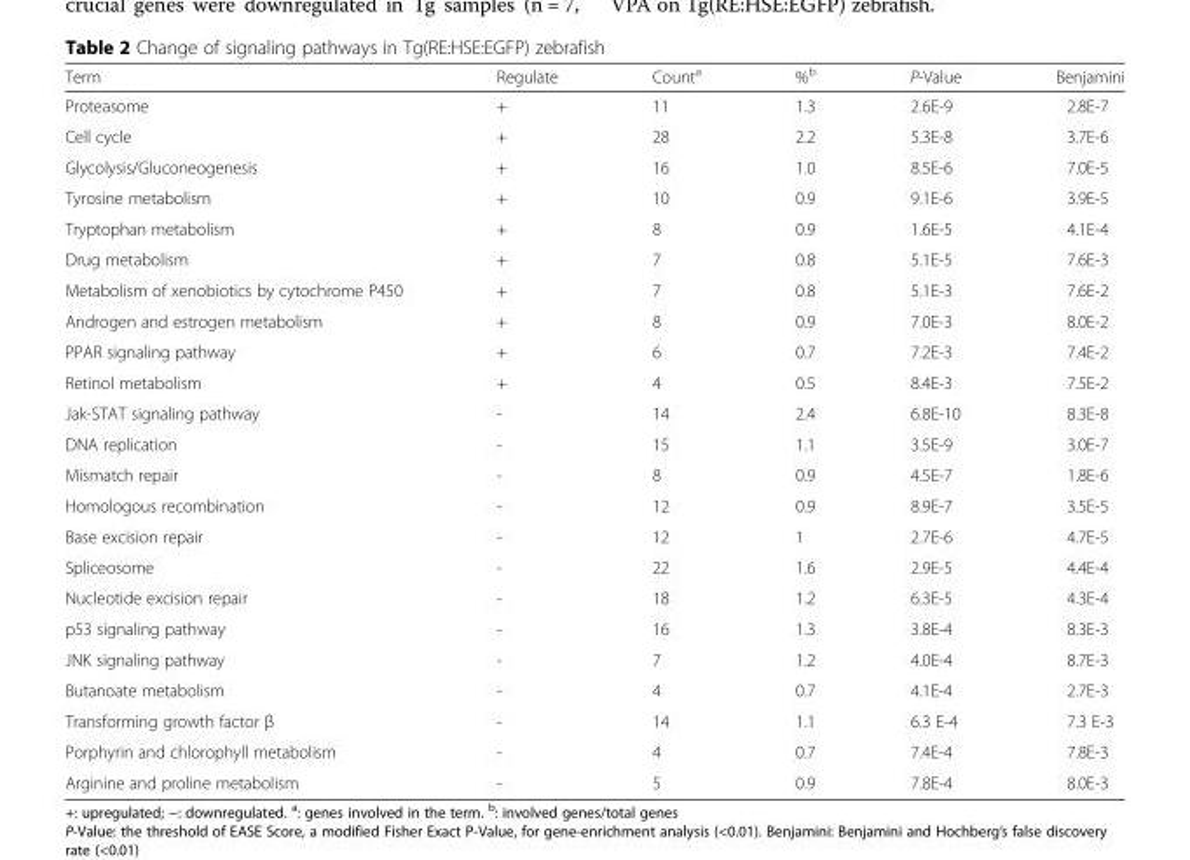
<table><thead><tr><td>Term</td><td>Regulate</td><td>Count<sup>a</sup></td><td>%<sup>b</sup></td><td>P-Value</td><td>Benjamini</td></tr></thead><tbody><tr><td>Proteasome</td><td>+</td><td>11</td><td>1.3</td><td>2.6E-9</td><td>2.8E-7</td></tr><tr><td>Cell cycle</td><td>+</td><td>28</td><td>2.2</td><td>5.3E-8</td><td>3.7E-6</td></tr><tr><td>Glycolysis/Gluconeogenesis</td><td>+</td><td>16</td><td>1.0</td><td>8.5E-6</td><td>7.0E-5</td></tr><tr><td>Tyrosine metabolism</td><td>+</td><td>10</td><td>0.9</td><td>9.1E-6</td><td>3.9E-5</td></tr><tr><td>Tryptophan metabolism</td><td>+</td><td>8</td><td>0.9</td><td>1.6E-5</td><td>4.1E-4</td></tr><tr><td>Drug metabolism</td><td>+</td><td>7</td><td>0.8</td><td>5.1E-5</td><td>7.6E-3</td></tr><tr><td>Metabolism of xenobiotics by cytochrome P450</td><td>+</td><td>7</td><td>0.8</td><td>5.1E-3</td><td>7.6E-2</td></tr><tr><td>Androgen and estrogen metabolism</td><td>+</td><td>8</td><td>0.9</td><td>7.0E-3</td><td>8.0E-2</td></tr><tr><td>PPAR signaling pathway</td><td>+</td><td>6</td><td>0.7</td><td>7.2E-3</td><td>7.4E-2</td></tr><tr><td>Retinol metabolism</td><td>+</td><td>4</td><td>0.5</td><td>8.4E-3</td><td>7.5E-2</td></tr><tr><td>Jak-STAT signaling pathway</td><td>-</td><td>14</td><td>2.4</td><td>6.8E-10</td><td>8.3E-8</td></tr><tr><td>DNA replication</td><td>-</td><td>15</td><td>1.1</td><td>3.5E-9</td><td>3.0E-7</td></tr><tr><td>Mismatch repair</td><td>-</td><td>8</td><td>0.9</td><td>4.5E-7</td><td>1.8E-6</td></tr><tr><td>Homologous recombination</td><td>-</td><td>12</td><td>0.9</td><td>8.9E-7</td><td>3.5E-5</td></tr><tr><td>Base excision repair</td><td>-</td><td>12</td><td>1</td><td>2.7E-6</td><td>4.7E-5</td></tr><tr><td>Spliceosome</td><td>-</td><td>22</td><td>1.6</td><td>2.9E-5</td><td>4.4E-4</td></tr><tr><td>Nucleotide excision repair</td><td>-</td><td>18</td><td>1.2</td><td>6.3E-5</td><td>4.3E-4</td></tr><tr><td>p53 signaling pathway</td><td>-</td><td>16</td><td>1.3</td><td>3.8E-4</td><td>8.3E-3</td></tr><tr><td>JNK signaling pathway</td><td>-</td><td>7</td><td>1.2</td><td>4.0E-4</td><td>8.7E-3</td></tr><tr><td>Butanoate metabolism</td><td>-</td><td>4</td><td>0.7</td><td>4.1E-4</td><td>2.7E-3</td></tr><tr><td>Transforming growth factor β</td><td>-</td><td>14</td><td>1.1</td><td>6.3 E-4</td><td>7.3 E-3</td></tr><tr><td>Porphyrin and chlorophyll metabolism</td><td>-</td><td>4</td><td>0.7</td><td>7.4E-4</td><td>7.8E-3</td></tr><tr><td>Arginine and proline metabolism</td><td>-</td><td>5</td><td>0.9</td><td>7.8E-4</td><td>8.0E-3</td></tr></tbody></table>